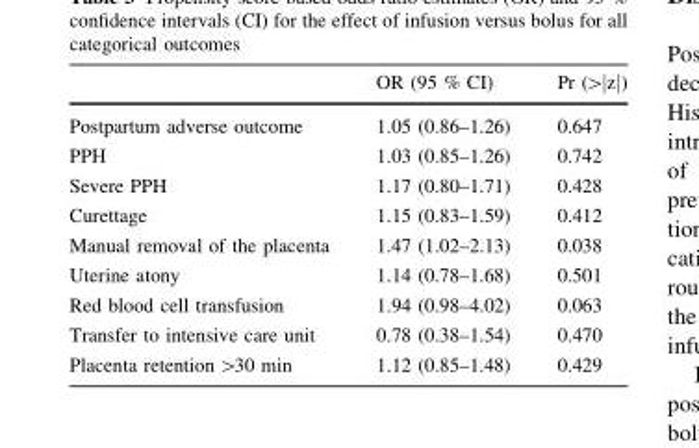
<table><thead><tr><td></td><td>OR (95 % CI)</td><td>Pr (&gt;∣z∣)</td></tr></thead><tbody><tr><td>Postpartum adverse outcome</td><td>1.05 (0.86–1.26)</td><td>0.647</td></tr><tr><td>PPH</td><td>1.03 (0.85–1.26)</td><td>0.742</td></tr><tr><td>Severe PPH</td><td>1.17 (0.80–1.71)</td><td>0.428</td></tr><tr><td>Curettage</td><td>1.15 (0.83–1.59)</td><td>0.412</td></tr><tr><td>Manual removal of the placenta</td><td>1.47 (1.02–2.13)</td><td>0.038</td></tr><tr><td>Uterine atony</td><td>1.14 (0.78–1.68)</td><td>0.501</td></tr><tr><td>Red blood cell transfusion</td><td>1.94 (0.98–4.02)</td><td>0.063</td></tr><tr><td>Transfer to intensive care unit</td><td>0.78 (0.38–1.54)</td><td>0.470</td></tr><tr><td>Placenta retention &gt;30 min</td><td>1.12 (0.85–1.48)</td><td>0.429</td></tr></tbody></table>